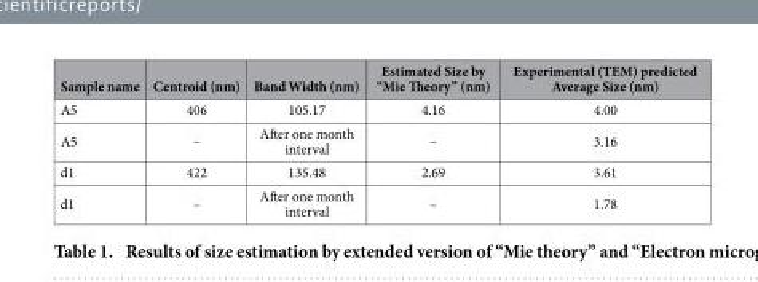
<table><thead><tr><td>Sample name</td><td>Centroid (nm)</td><td>Band Width (nm)</td><td>Estimated Size by “Mie Theory” (nm)</td><td>Experimental (TEM) predicted Average Size (nm)</td></tr></thead><tbody><tr><td>A5</td><td>406</td><td>105.17</td><td>4.16</td><td>4.00</td></tr><tr><td>A5</td><td>–</td><td>After one month interval</td><td>–</td><td>3.16</td></tr><tr><td>d1</td><td>422</td><td>135.48</td><td>2.69</td><td>3.61</td></tr><tr><td>d1</td><td>–</td><td>After one month interval</td><td>–</td><td>1.78</td></tr></tbody></table>